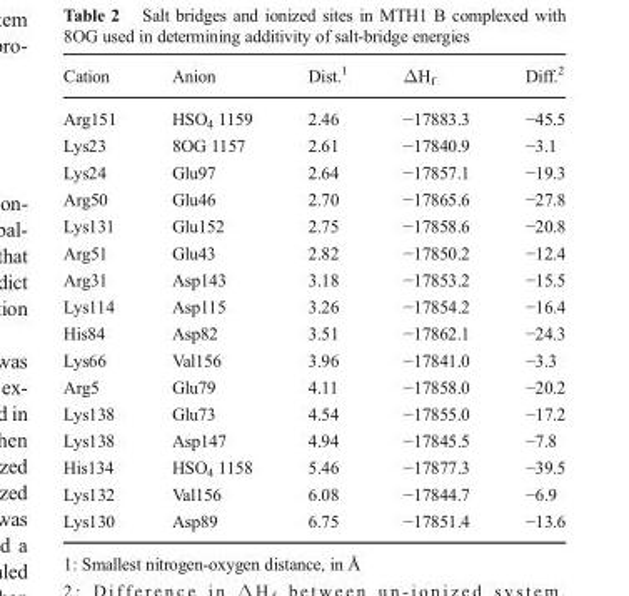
<table><thead><tr><td>Cation</td><td>Anion</td><td>Dist.<sup>1</sup></td><td>ΔH<sub>f</sub></td><td>Diff.<sup>2</sup></td></tr></thead><tbody><tr><td>Arg151</td><td>HSO<sub>4</sub> 1159</td><td>2.46</td><td>−17883.3</td><td>−45.5</td></tr><tr><td>Lys23</td><td>8OG 1157</td><td>2.61</td><td>−17840.9</td><td>−3.1</td></tr><tr><td>Lys24</td><td>Glu97</td><td>2.64</td><td>−17857.1</td><td>−19.3</td></tr><tr><td>Arg50</td><td>Glu46</td><td>2.70</td><td>−17865.6</td><td>−27.8</td></tr><tr><td>Lys131</td><td>Glu152</td><td>2.75</td><td>−17858.6</td><td>−20.8</td></tr><tr><td>Arg51</td><td>Glu43</td><td>2.82</td><td>−17850.2</td><td>−12.4</td></tr><tr><td>Arg31</td><td>Asp143</td><td>3.18</td><td>−17853.2</td><td>−15.5</td></tr><tr><td>Lys114</td><td>Asp115</td><td>3.26</td><td>−17854.2</td><td>−16.4</td></tr><tr><td>His84</td><td>Asp82</td><td>3.51</td><td>−17862.1</td><td>−24.3</td></tr><tr><td>Lys66</td><td>Val156</td><td>3.96</td><td>−17841.0</td><td>−3.3</td></tr><tr><td>Arg5</td><td>Glu79</td><td>4.11</td><td>−17858.0</td><td>−20.2</td></tr><tr><td>Lys138</td><td>Glu73</td><td>4.54</td><td>−17855.0</td><td>−17.2</td></tr><tr><td>Lys138</td><td>Asp147</td><td>4.94</td><td>−17845.5</td><td>−7.8</td></tr><tr><td>His134</td><td>HSO<sub>4</sub> 1158</td><td>5.46</td><td>−17877.3</td><td>−39.5</td></tr><tr><td>Lys132</td><td>Val156</td><td>6.08</td><td>−17844.7</td><td>−6.9</td></tr><tr><td>Lys130</td><td>Asp89</td><td>6.75</td><td>−17851.4</td><td>−13.6</td></tr></tbody></table>